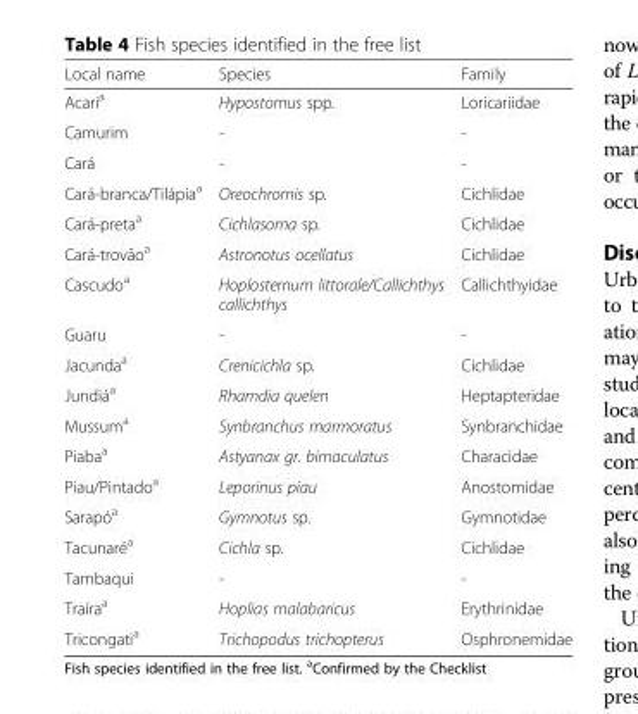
<table><thead><tr><td>Local name</td><td>Species</td><td>Family</td></tr></thead><tbody><tr><td>Acari<sup>a</sup></td><td>Hypostomus spp.</td><td>Loricariidae</td></tr><tr><td>Camurim</td><td>-</td><td>-</td></tr><tr><td>Cará</td><td>-</td><td>-</td></tr><tr><td>Cará-branca/Tilápia<sup>a</sup></td><td>Oreochromis sp.</td><td>Cichlidae</td></tr><tr><td>Cará-preta<sup>a</sup></td><td>Cichlasoma sp.</td><td>Cichlidae</td></tr><tr><td>Cará-trovão<sup>a</sup></td><td>Astronotus ocellatus</td><td>Cichlidae</td></tr><tr><td>Cascudo<sup>a</sup></td><td>Hoplosternum littorale/Callichthys callichthys</td><td>Callichthyidae</td></tr><tr><td>Guaru</td><td>-</td><td>-</td></tr><tr><td>Jacunda<sup>a</sup></td><td>Crenicichla sp.</td><td>Cichlidae</td></tr><tr><td>Jundiá<sup>a</sup></td><td>Rhamdia quelen</td><td>Heptapteridae</td></tr><tr><td>Mussum<sup>a</sup></td><td>Synbranchus marmoratus</td><td>Synbranchidae</td></tr><tr><td>Piaba<sup>a</sup></td><td>Astyanax gr. bimaculatus</td><td>Characidae</td></tr><tr><td>Piau/Pintado<sup>a</sup></td><td>Leporinus piau</td><td>Anostomidae</td></tr><tr><td>Sarapó<sup>a</sup></td><td>Gymnotus sp.</td><td>Gymnotidae</td></tr><tr><td>Tacunaré<sup>a</sup></td><td>Cichla sp.</td><td>Cichlidae</td></tr><tr><td>Tambaqui</td><td>-</td><td>-</td></tr><tr><td>Traíra<sup>a</sup></td><td>Hoplias malabaricus</td><td>Erythrinidae</td></tr><tr><td>Tricongati<sup>a</sup></td><td>Trichopodus trichopterus</td><td>Osphronemidae</td></tr></tbody></table>